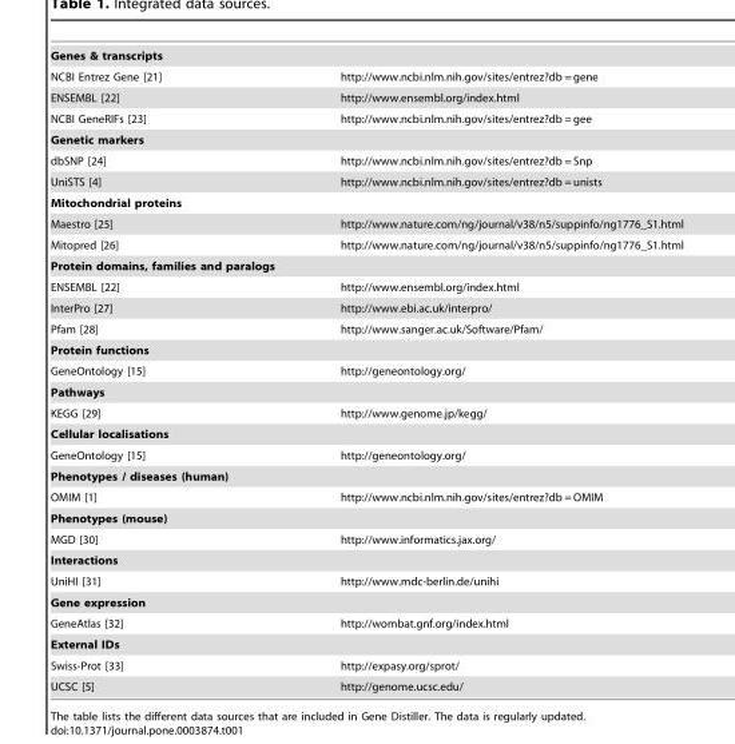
<table><tbody><tr><td colspan="2">Genes &amp; transcripts</td></tr><tr><td>NCBI Entrez Gene [21]</td><td>http://www.ncbi.nlm.nih.gov/sites/entrez?db = gene</td></tr><tr><td>ENSEMBL [22]</td><td>http://www.ensembl.org/index.html</td></tr><tr><td>NCBI GeneRIFs [23]</td><td>http://www.ncbi.nlm.nih.gov/sites/entrez?db = gee</td></tr><tr><td colspan="2">Genetic markers</td></tr><tr><td>dbSNP [24]</td><td>http://www.ncbi.nlm.nih.gov/sites/entrez?db = Snp</td></tr><tr><td>UniSTS [4]</td><td>http://www.ncbi.nlm.nih.gov/sites/entrez?db = unists</td></tr><tr><td colspan="2">Mitochondrial proteins</td></tr><tr><td>Maestro [25]</td><td>http://www.nature.com/ng/journal/v38/n5/suppinfo/ng1776_S1.html</td></tr><tr><td>Mitopred [26]</td><td>http://www.nature.com/ng/journal/v38/n5/suppinfo/ng1776_S1.html</td></tr><tr><td colspan="2">Protein domains, families and paralogs</td></tr><tr><td>ENSEMBL [22]</td><td>http://www.ensembl.org/index.html</td></tr><tr><td>InterPro [27]</td><td>http://www.ebi.ac.uk/interpro/</td></tr><tr><td>Pfam [28]</td><td>http://www.sanger.ac.uk/Software/Pfam/</td></tr><tr><td colspan="2">Protein functions</td></tr><tr><td>GeneOntology [15]</td><td>http://geneontology.org/</td></tr><tr><td colspan="2">Pathways</td></tr><tr><td>KEGG [29]</td><td>http://www.genome.jp/kegg/</td></tr><tr><td colspan="2">Cellular localisations</td></tr><tr><td>GeneOntology [15]</td><td>http://geneontology.org/</td></tr><tr><td colspan="2">Phenotypes / diseases (human)</td></tr><tr><td>OMIM [1]</td><td>http://www.ncbi.nlm.nih.gov/sites/entrez?db = OMIM</td></tr><tr><td colspan="2">Phenotypes (mouse)</td></tr><tr><td>MGD [30]</td><td>http://www.informatics.jax.org/</td></tr><tr><td colspan="2">Interactions</td></tr><tr><td>UniHI [31]</td><td>http://www.mdc-berlin.de/unihi</td></tr><tr><td colspan="2">Gene expression</td></tr><tr><td>GeneAtlas [32]</td><td>http://wombat.gnf.org/index.html</td></tr><tr><td colspan="2">External IDs</td></tr><tr><td>Swiss-Prot [33]</td><td>http://expasy.org/sprot/</td></tr><tr><td>UCSC [5]</td><td>http://genome.ucsc.edu/</td></tr></tbody></table>